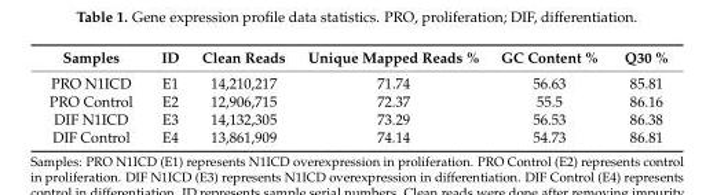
<table><thead><tr><td>Samples</td><td>ID</td><td>Clean Reads</td><td>Unique Mapped Reads %</td><td>GC Content %</td><td>Q30 %</td></tr></thead><tbody><tr><td>PRO N1ICD</td><td>E1</td><td>14,210,217</td><td>71.74</td><td>56.63</td><td>85.81</td></tr><tr><td>PRO Control</td><td>E2</td><td>12,906,715</td><td>72.37</td><td>55.5</td><td>86.16</td></tr><tr><td>DIF N1ICD</td><td>E3</td><td>14,132,305</td><td>73.29</td><td>56.53</td><td>86.38</td></tr><tr><td>DIF Control</td><td>E4</td><td>13,861,909</td><td>74.14</td><td>54.73</td><td>86.81</td></tr></tbody></table>